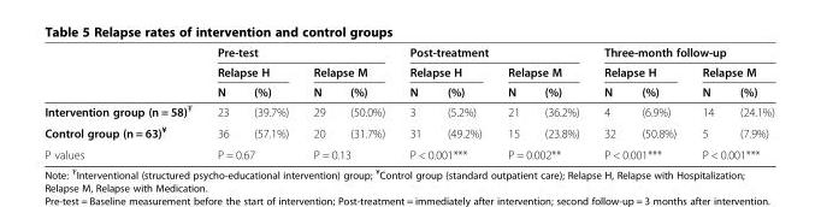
<table><thead><tr><td rowspan="3"></td><td colspan="4">Pre-test</td><td colspan="4">Post-treatment</td><td colspan="4">Three-month follow-up</td></tr><tr><td colspan="2">Relapse H</td><td colspan="2">Relapse M</td><td colspan="2">Relapse H</td><td colspan="2">Relapse M</td><td colspan="2">Relapse H</td><td colspan="2">Relapse M</td></tr><tr><td>N</td><td>(%)</td><td>N</td><td>(%)</td><td>N</td><td>(%)</td><td>N</td><td>(%)</td><td>N</td><td>(%)</td><td>N</td><td>(%)</td></tr></thead><tbody><tr><td>Intervention group (n = 58)<sup>₮</sup></td><td>23</td><td>(39.7%)</td><td>29</td><td>(50.0%)</td><td>3</td><td>(5.2%)</td><td>21</td><td>(36.2%)</td><td>4</td><td>(6.9%)</td><td>14</td><td>(24.1%)</td></tr><tr><td>Control group (n = 63)<sup>¥</sup></td><td>36</td><td>(57.1%)</td><td>20</td><td>(31.7%)</td><td>31</td><td>(49.2%)</td><td>15</td><td>(23.8%)</td><td>32</td><td>(50.8%)</td><td>5</td><td>(7.9%)</td></tr><tr><td>P values</td><td colspan="2">P = 0.67</td><td colspan="2">P = 0.13</td><td colspan="2">P &lt; 0.001***</td><td colspan="2">P = 0.002**</td><td colspan="2">P &lt; 0.001***</td><td colspan="2">P &lt; 0.001***</td></tr></tbody></table>